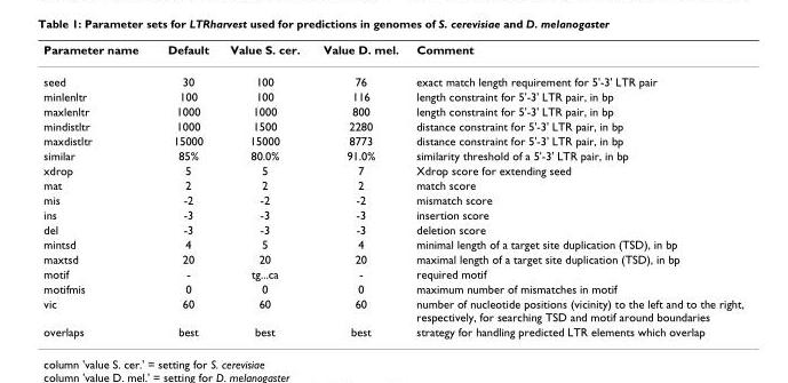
<table><thead><tr><td>Parameter name</td><td>Default</td><td>Value S. cer.</td><td>Value D. mel.</td><td>Comment</td></tr></thead><tbody><tr><td>seed</td><td>30</td><td>100</td><td>76</td><td>exact match length requirement for 5&#x27;-3&#x27; LTR pair</td></tr><tr><td>minlenltr</td><td>100</td><td>100</td><td>116</td><td>length constraint for 5&#x27;-3&#x27; LTR pair, in bp</td></tr><tr><td>maxlenltr</td><td>1000</td><td>1000</td><td>800</td><td>length constraint for 5&#x27;-3&#x27; LTR pair, in bp</td></tr><tr><td>mindistltr</td><td>1000</td><td>1500</td><td>2280</td><td>distance constraint for 5&#x27;-3&#x27; LTR pair, in bp</td></tr><tr><td>maxdistltr</td><td>15000</td><td>15000</td><td>8773</td><td>distance constraint for 5&#x27;-3&#x27; LTR pair, in bp</td></tr><tr><td>similar</td><td>85%</td><td>80.0%</td><td>91.0%</td><td>similarity threshold of a 5&#x27;-3&#x27; LTR pair, in bp</td></tr><tr><td>xdrop</td><td>5</td><td>5</td><td>7</td><td>Xdrop score for extending seed</td></tr><tr><td>mat</td><td>2</td><td>2</td><td>2</td><td>match score</td></tr><tr><td>mis</td><td>-2</td><td>-2</td><td>-2</td><td>mismatch score</td></tr><tr><td>ins</td><td>-3</td><td>-3</td><td>-3</td><td>insertion score</td></tr><tr><td>del</td><td>-3</td><td>-3</td><td>-3</td><td>deletion score</td></tr><tr><td>mintsd</td><td>4</td><td>5</td><td>4</td><td>minimal length of a target site duplication (TSD), in bp</td></tr><tr><td>maxtsd</td><td>20</td><td>20</td><td>20</td><td>maximal length of a target site duplication (TSD), in bp</td></tr><tr><td>motif</td><td>-</td><td>tg...ca</td><td>-</td><td>required motif</td></tr><tr><td>motifmis</td><td>0</td><td>0</td><td>0</td><td>maximum number of mismatches in motif</td></tr><tr><td>vic</td><td>60</td><td>60</td><td>60</td><td>number of nucleotide positions (vicinity) to the left and to the right, respectively, for searching TSD and motif around boundaries</td></tr><tr><td>overlaps</td><td>best</td><td>best</td><td>best</td><td>strategy for handling predicted LTR elements which overlap</td></tr></tbody></table>